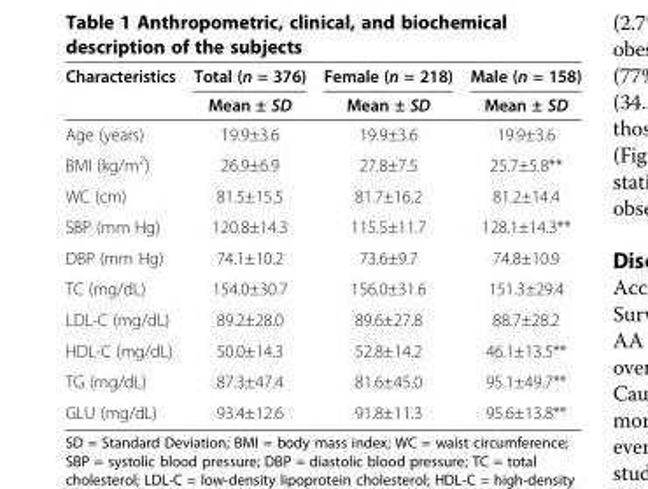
<table><thead><tr><td rowspan="2">Characteristics</td><td rowspan="2">Total (n = 376) Mean ± SD</td><td rowspan="2">Female (n = 218) Mean ± SD</td><td rowspan="2">Male (n = 158) Mean ± SD</td></tr><tr></tr></thead><tbody><tr><td>Age (years)</td><td>19.9±3.6</td><td>19.9±3.6</td><td>19.9±3.6</td></tr><tr><td>BMI (kg/m<sup>2</sup>)</td><td>26.9±6.9</td><td>27.8±7.5</td><td>25.7±5.8**</td></tr><tr><td>WC (cm)</td><td>81.5±15.5</td><td>81.7±16.2</td><td>81.2±14.4</td></tr><tr><td>SBP (mm Hg)</td><td>120.8±14.3</td><td>115.5±11.7</td><td>128.1±14.3**</td></tr><tr><td>DBP (mm Hg)</td><td>74.1±10.2</td><td>73.6±9.7</td><td>74.8±10.9</td></tr><tr><td>TC (mg/dL)</td><td>154.0±30.7</td><td>156.0±31.6</td><td>151.3±29.4</td></tr><tr><td>LDL-C (mg/dL)</td><td>89.2±28.0</td><td>89.6±27.8</td><td>88.7±28.2</td></tr><tr><td>HDL-C (mg/dL)</td><td>50.0±14.3</td><td>52.8±14.2</td><td>46.1±13.5**</td></tr><tr><td>TG (mg/dL)</td><td>87.3±47.4</td><td>81.6±45.0</td><td>95.1±49.7**</td></tr><tr><td>GLU (mg/dL)</td><td>93.4±12.6</td><td>91.8±11.3</td><td>95.6±13.8**</td></tr></tbody></table>